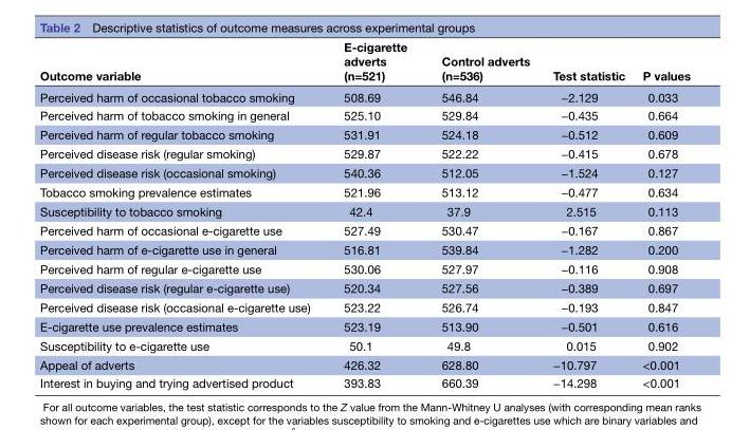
<table><thead><tr><td>Outcome variable</td><td>E-cigarette adverts (n=521)</td><td>Control adverts (n=536)</td><td>Test statistic</td><td>P values</td></tr></thead><tbody><tr><td>Perceived harm of occasional tobacco smoking</td><td>508.69</td><td>546.84</td><td>−2.129</td><td>0.033</td></tr><tr><td>Perceived harm of tobacco smoking in general</td><td>525.10</td><td>529.84</td><td>−0.435</td><td>0.664</td></tr><tr><td>Perceived harm of regular tobacco smoking</td><td>531.91</td><td>524.18</td><td>−0.512</td><td>0.609</td></tr><tr><td>Perceived disease risk (regular smoking)</td><td>529.87</td><td>522.22</td><td>−0.415</td><td>0.678</td></tr><tr><td>Perceived disease risk (occasional smoking)</td><td>540.36</td><td>512.05</td><td>−1.524</td><td>0.127</td></tr><tr><td>Tobacco smoking prevalence estimates</td><td>521.96</td><td>513.12</td><td>−0.477</td><td>0.634</td></tr><tr><td>Susceptibility to tobacco smoking</td><td>42.4</td><td>37.9</td><td>2.515</td><td>0.113</td></tr><tr><td>Perceived harm of occasional e-cigarette use</td><td>527.49</td><td>530.47</td><td>−0.167</td><td>0.867</td></tr><tr><td>Perceived harm of e-cigarette use in general</td><td>516.81</td><td>539.84</td><td>−1.282</td><td>0.200</td></tr><tr><td>Perceived harm of regular e-cigarette use</td><td>530.06</td><td>527.97</td><td>−0.116</td><td>0.908</td></tr><tr><td>Perceived disease risk (regular e-cigarette use)</td><td>520.34</td><td>527.56</td><td>−0.389</td><td>0.697</td></tr><tr><td>Perceived disease risk (occasional e-cigarette use)</td><td>523.22</td><td>526.74</td><td>−0.193</td><td>0.847</td></tr><tr><td>E-cigarette use prevalence estimates</td><td>523.19</td><td>513.90</td><td>−0.501</td><td>0.616</td></tr><tr><td>Susceptibility to e-cigarette use</td><td>50.1</td><td>49.8</td><td>0.015</td><td>0.902</td></tr><tr><td>Appeal of adverts</td><td>426.32</td><td>628.80</td><td>−10.797</td><td>&lt;0.001</td></tr><tr><td>Interest in buying and trying advertised product</td><td>393.83</td><td>660.39</td><td>−14.298</td><td>&lt;0.001</td></tr></tbody></table>